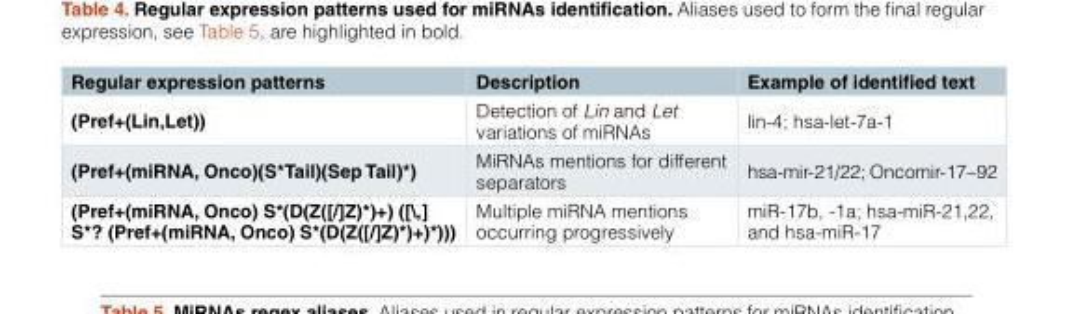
<table><thead><tr><td>Regular expression patterns</td><td>Description</td><td>Example of identified text</td></tr></thead><tbody><tr><td>(Pref+(Lin,Let))</td><td>Detection of Lin and Let variations of miRNAs</td><td>lin-4; hsa-let-7a-1</td></tr><tr><td>(Pref+(miRNA, Onco)(S*Tail)(Sep Tail)*)</td><td>MiRNAs mentions for different separators</td><td>hsa-mir-21/22; Oncomir-17∼92</td></tr><tr><td>(Pref+(miRNA, Onco) S*(D(Z([/]Z)*)+) ([\,] S*? (Pref+(miRNA, Onco) S*(D(Z([/]Z)*)+)*)))</td><td>Multiple miRNA mentions occurring progressively</td><td>miR-17b, -1a; hsa-miR-21,22, and hsa-miR-17</td></tr></tbody></table>